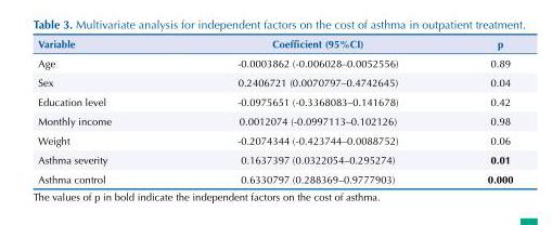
<table><thead><tr><td>Variable</td><td>Coefficient (95%CI)</td><td>p</td></tr></thead><tbody><tr><td>Age</td><td>-0.0003862 (-0.006028–0.0052556)</td><td>0.89</td></tr><tr><td>Sex</td><td>0.2406721 (0.0070797–0.4742645)</td><td>0.04</td></tr><tr><td>Education level</td><td>-0.0975651 (-0.3368083–0.141678)</td><td>0.42</td></tr><tr><td>Monthly income</td><td>0.0012074 (-0.0997113–0.102126)</td><td>0.98</td></tr><tr><td>Weight</td><td>-0.2074344 (-0.423744–0.0088752)</td><td>0.06</td></tr><tr><td>Asthma severity</td><td>0.1637397 (0.0322054–0.295274)</td><td>0.01</td></tr><tr><td>Asthma control</td><td>0.6330797 (0.288369–0.9777903)</td><td>0.000</td></tr></tbody></table>